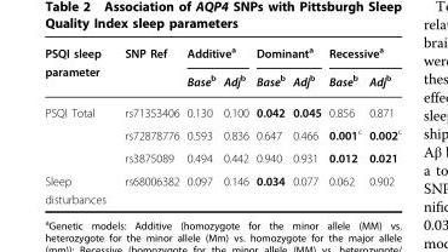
<table><thead><tr><td rowspan="2">PSQI sleep parameter</td><td rowspan="2">SNP Ref</td><td colspan="2">Additive<sup>a</sup></td><td colspan="2">Dominant<sup>a</sup></td><td colspan="2">Recessive<sup>a</sup></td></tr><tr><td>Base<sup>b</sup></td><td>Adj<sup>b</sup></td><td>Base<sup>b</sup></td><td>Adj<sup>b</sup></td><td>Base<sup>b</sup></td><td>Adj<sup>b</sup></td></tr></thead><tbody><tr><td rowspan="3">PSQI Total</td><td>rs71353406</td><td>0.130</td><td>0.100</td><td>0.042</td><td>0.045</td><td>0.856</td><td>0.871</td></tr><tr><td>rs72878776</td><td>0.593</td><td>0.836</td><td>0.647</td><td>0.466</td><td>0.001<sup>c</sup></td><td>0.002<sup>c</sup></td></tr><tr><td>rs3875089</td><td>0.494</td><td>0.442</td><td>0.940</td><td>0.931</td><td>0.012</td><td>0.021</td></tr><tr><td>Sleep disturbances</td><td>rs68006382</td><td>0.097</td><td>0.146</td><td>0.034</td><td>0.077</td><td>0.062</td><td>0.902</td></tr></tbody></table>